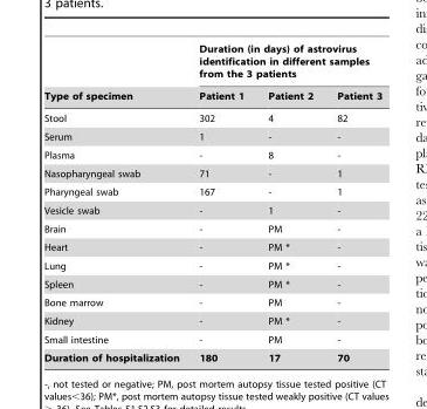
<table><thead><tr><td rowspan="2">Type of specimen</td><td colspan="3">Duration (in days) of astrovirus identification in different samples from the 3 patients</td></tr><tr><td>Patient 1</td><td>Patient 2</td><td>Patient 3</td></tr></thead><tbody><tr><td>Stool</td><td>302</td><td>4</td><td>82</td></tr><tr><td>Serum</td><td>1</td><td>-</td><td>-</td></tr><tr><td>Plasma</td><td>-</td><td>8</td><td>-</td></tr><tr><td>Nasopharyngeal swab</td><td>71</td><td>-</td><td>1</td></tr><tr><td>Pharyngeal swab</td><td>167</td><td>-</td><td>1</td></tr><tr><td>Vesicle swab</td><td>-</td><td>1</td><td>-</td></tr><tr><td>Brain</td><td>-</td><td>PM</td><td>-</td></tr><tr><td>Heart</td><td>-</td><td>PM *</td><td>-</td></tr><tr><td>Lung</td><td>-</td><td>PM *</td><td>-</td></tr><tr><td>Spleen</td><td>-</td><td>PM *</td><td>-</td></tr><tr><td>Bone marrow</td><td>-</td><td>PM</td><td>-</td></tr><tr><td>Kidney</td><td>-</td><td>PM *</td><td>-</td></tr><tr><td>Small intestine</td><td>-</td><td>PM</td><td>-</td></tr><tr><td>Duration of hospitalization</td><td>180</td><td>17</td><td>70</td></tr></tbody></table>